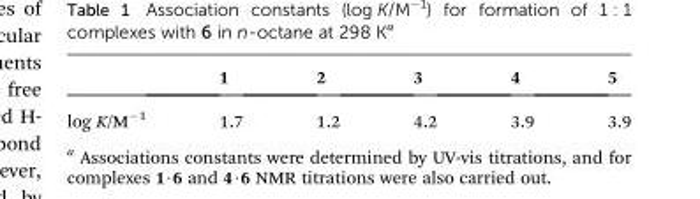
<table><thead><tr><td></td><td>1</td><td>2</td><td>3</td><td>4</td><td>5</td></tr></thead><tbody><tr><td>log K/M<sup>–1</sup></td><td>1.7</td><td>1.2</td><td>4.2</td><td>3.9</td><td>3.9</td></tr></tbody></table>